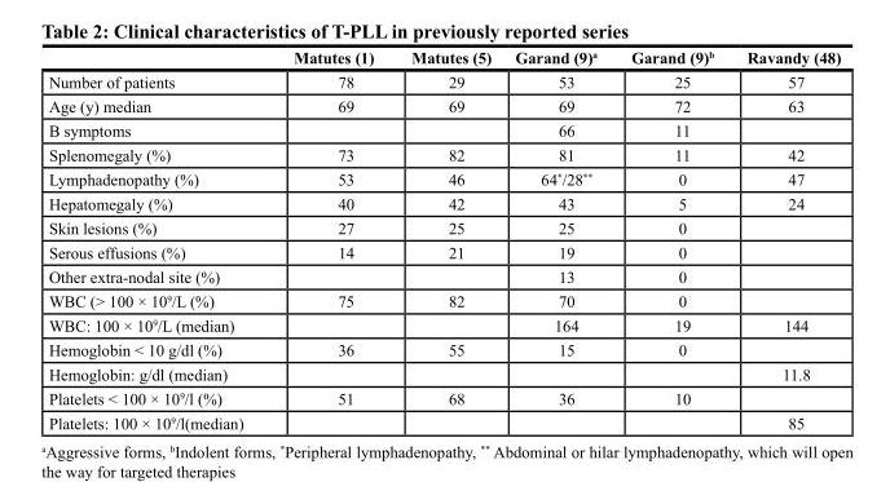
<table><thead><tr><td></td><td>Matutes (1)</td><td>Matutes (5)</td><td>Garand (9)<sup>a</sup></td><td>Garand (9)<sup>b</sup></td><td>Ravandy (48)</td></tr></thead><tbody><tr><td>Number of patients</td><td>78</td><td>29</td><td>53</td><td>25</td><td>57</td></tr><tr><td>Age (y) median</td><td>69</td><td>69</td><td>69</td><td>72</td><td>63</td></tr><tr><td>B symptoms</td><td></td><td></td><td>66</td><td>11</td><td></td></tr><tr><td>Splenomegaly (%)</td><td>73</td><td>82</td><td>81</td><td>11</td><td>42</td></tr><tr><td>Lymphadenopathy (%)</td><td>53</td><td>46</td><td>64*/28**</td><td>0</td><td>47</td></tr><tr><td>Hepatomegaly (%)</td><td>40</td><td>42</td><td>43</td><td>5</td><td>24</td></tr><tr><td>Skin lesions (%)</td><td>27</td><td>25</td><td>25</td><td>0</td><td></td></tr><tr><td>Serous effusions (%)</td><td>14</td><td>21</td><td>19</td><td>0</td><td></td></tr><tr><td>Other extra-nodal site (%)</td><td></td><td></td><td>13</td><td>0</td><td></td></tr><tr><td>WBC (&gt; 100 × 10<sup>9</sup>/L (%)</td><td>75</td><td>82</td><td>70</td><td>0</td><td></td></tr><tr><td>WBC: 100 × 10<sup>9</sup>/L (median)</td><td></td><td></td><td>164</td><td>19</td><td>144</td></tr><tr><td>Hemoglobin &lt; 10 g/dl (%)</td><td>36</td><td>55</td><td>15</td><td>0</td><td></td></tr><tr><td>Hemoglobin: g/dl (median)</td><td></td><td></td><td></td><td></td><td>11.8</td></tr><tr><td>Platelets &lt; 100 × 10<sup>9</sup>/l (%)</td><td>51</td><td>68</td><td>36</td><td>10</td><td></td></tr><tr><td>Platelets: 100 × 10<sup>9</sup>/l(median)</td><td></td><td></td><td></td><td></td><td>85</td></tr></tbody></table>